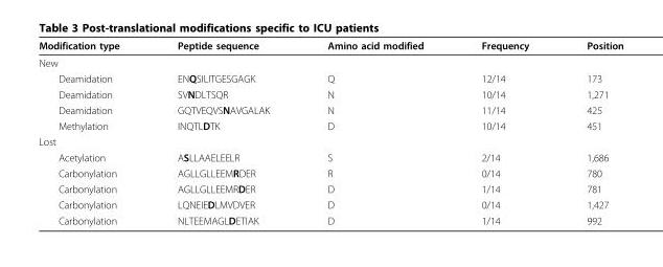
<table><thead><tr><td>Modification type</td><td>Peptide sequence</td><td>Amino acid modified</td><td>Frequency</td><td>Position</td></tr></thead><tbody><tr><td colspan="5">New</td></tr><tr><td>Deamidation</td><td>ENQSILITGESGAGK</td><td>Q</td><td>12/14</td><td>173</td></tr><tr><td>Deamidation</td><td>SVNDLTSQR</td><td>N</td><td>10/14</td><td>1,271</td></tr><tr><td>Deamidation</td><td>GQTVEQVSNAVGALAK</td><td>N</td><td>11/14</td><td>425</td></tr><tr><td>Methylation</td><td>INQTLDTK</td><td>D</td><td>10/14</td><td>451</td></tr><tr><td colspan="5">Lost</td></tr><tr><td>Acetylation</td><td>ASLLAAELEELR</td><td>S</td><td>2/14</td><td>1,686</td></tr><tr><td>Carbonylation</td><td>AGLLGLLEEMRDER</td><td>R</td><td>0/14</td><td>780</td></tr><tr><td>Carbonylation</td><td>AGLLGLLEEMRDER</td><td>D</td><td>1/14</td><td>781</td></tr><tr><td>Carbonylation</td><td>LQNEIEDLMVDVER</td><td>D</td><td>0/14</td><td>1,427</td></tr><tr><td>Carbonylation</td><td>NLTEEMAGLDETIAK</td><td>D</td><td>1/14</td><td>992</td></tr></tbody></table>